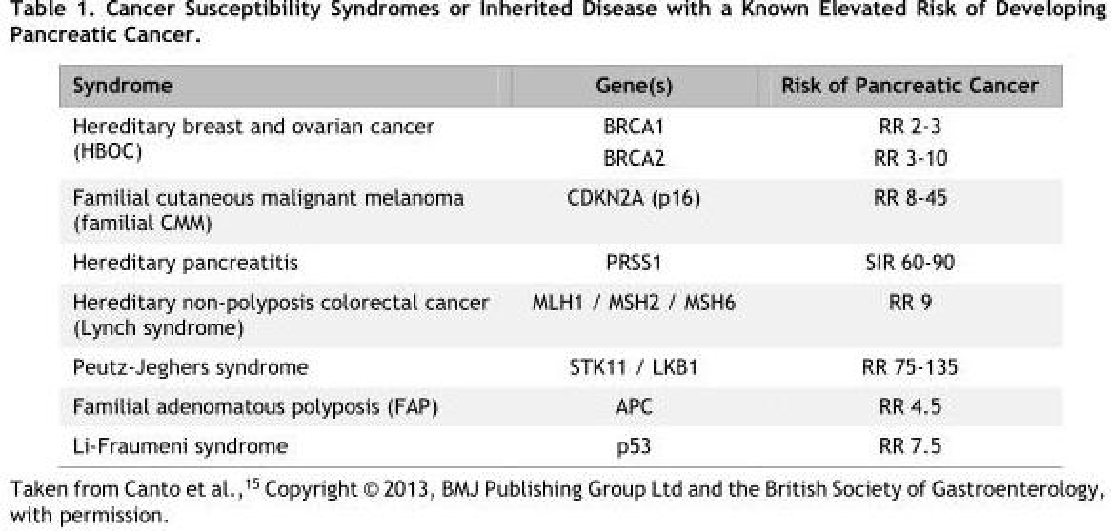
<table><thead><tr><td>Syndrome</td><td>Gene(s)</td><td>Risk of Pancreatic Cancer</td></tr></thead><tbody><tr><td>Hereditary breast and ovarian cancer (HBOC)</td><td>BRCA1 BRCA2</td><td>RR 2-3 RR 3-10</td></tr><tr><td>Familial cutaneous malignant melanoma (familial CMM)</td><td>CDKN2A (p16)</td><td>RR 8-45</td></tr><tr><td>Hereditary pancreatitis</td><td>PRSS1</td><td>SIR 60-90</td></tr><tr><td>Hereditary non-polyposis colorectal cancer (Lynch syndrome)</td><td>MLH1 / MSH2 / MSH6</td><td>RR 9</td></tr><tr><td>Peutz-Jeghers syndrome</td><td>STK11 / LKB1</td><td>RR 75-135</td></tr><tr><td>Familial adenomatous polyposis (FAP)</td><td>APC</td><td>RR 4.5</td></tr><tr><td>Li-Fraumeni syndrome</td><td>p53</td><td>RR 7.5</td></tr></tbody></table>